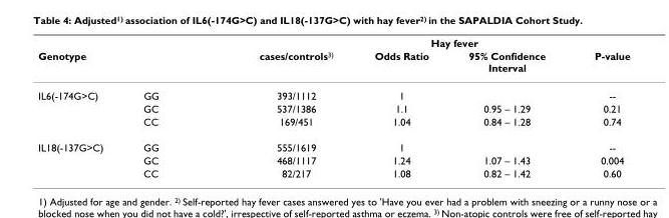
<table><thead><tr><td rowspan="2">Genotype</td><td rowspan="2"></td><td colspan="4">Hay fever</td></tr><tr><td>cases/controls<sup>3)</sup></td><td>Odds Ratio</td><td>95% Confidence Interval</td><td>P-value</td></tr></thead><tbody><tr><td rowspan="3">IL6(-174G&gt;C)</td><td>GG</td><td>393/1112</td><td>1</td><td></td><td>--</td></tr><tr><td>GC</td><td>537/1386</td><td>1.1</td><td>0.95 – 1.29</td><td>0.21</td></tr><tr><td>CC</td><td>169/451</td><td>1.04</td><td>0.84 – 1.28</td><td>0.74</td></tr><tr><td rowspan="3">IL18(-137G&gt;C)</td><td>GG</td><td>555/1619</td><td>1</td><td></td><td>--</td></tr><tr><td>GC</td><td>468/1117</td><td>1.24</td><td>1.07 – 1.43</td><td>0.004</td></tr><tr><td>CC</td><td>82/217</td><td>1.08</td><td>0.82 – 1.42</td><td>0.60</td></tr></tbody></table>